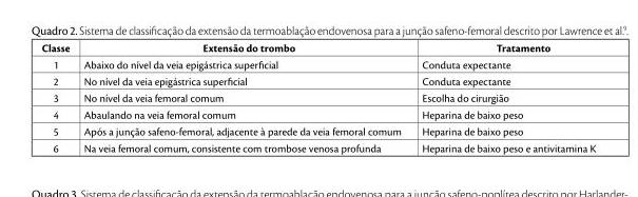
<table><thead><tr><td>Classe</td><td>Extensão do trombo</td><td>Tratamento</td></tr></thead><tbody><tr><td>1</td><td>Abaixo do nível da veia epigástrica superficial</td><td>Conduta expectante</td></tr><tr><td>2</td><td>No nível da veia epigástrica superficial</td><td>Conduta expectante</td></tr><tr><td>3</td><td>No nível da veia femoral comum</td><td>Escolha do cirurgião</td></tr><tr><td>4</td><td>Abaulando na veia femoral comum</td><td>Heparina de baixo peso</td></tr><tr><td>5</td><td>Após a junção safeno-femoral, adjacente à parede da veia femoral comum</td><td>Heparina de baixo peso</td></tr><tr><td>6</td><td>Na veia femoral comum, consistente com trombose venosa profunda</td><td>Heparina de baixo peso e antivitamina K</td></tr></tbody></table>